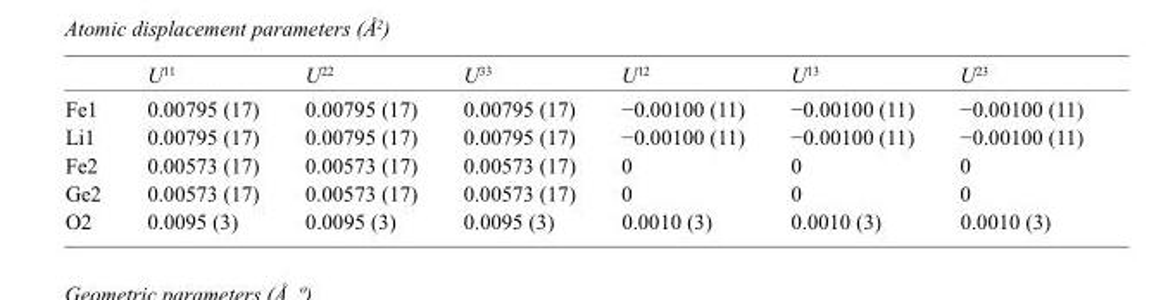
<table><thead><tr><td></td><td>U<sup>11</sup></td><td>U<sup>22</sup></td><td>U<sup>33</sup></td><td>U<sup>12</sup></td><td>U<sup>13</sup></td><td>U<sup>23</sup></td></tr></thead><tbody><tr><td>Fe1</td><td>0.00795 (17)</td><td>0.00795 (17)</td><td>0.00795 (17)</td><td>−0.00100 (11)</td><td>−0.00100 (11)</td><td>−0.00100 (11)</td></tr><tr><td>Li1</td><td>0.00795 (17)</td><td>0.00795 (17)</td><td>0.00795 (17)</td><td>−0.00100 (11)</td><td>−0.00100 (11)</td><td>−0.00100 (11)</td></tr><tr><td>Fe2</td><td>0.00573 (17)</td><td>0.00573 (17)</td><td>0.00573 (17)</td><td>0</td><td>0</td><td>0</td></tr><tr><td>Ge2</td><td>0.00573 (17)</td><td>0.00573 (17)</td><td>0.00573 (17)</td><td>0</td><td>0</td><td>0</td></tr><tr><td>O2</td><td>0.0095 (3)</td><td>0.0095 (3)</td><td>0.0095 (3)</td><td>0.0010 (3)</td><td>0.0010 (3)</td><td>0.0010 (3)</td></tr></tbody></table>